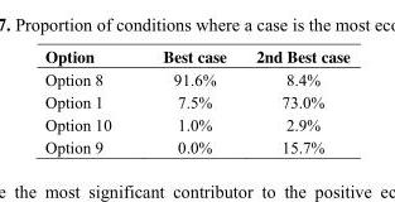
<table><thead><tr><td>Option</td><td>Best case</td><td>2nd Best case</td></tr></thead><tbody><tr><td>Option 8</td><td>91.6%</td><td>8.4%</td></tr><tr><td>Option 1</td><td>7.5%</td><td>73.0%</td></tr><tr><td>Option 10</td><td>1.0%</td><td>2.9%</td></tr><tr><td>Option 9</td><td>0.0%</td><td>15.7%</td></tr></tbody></table>